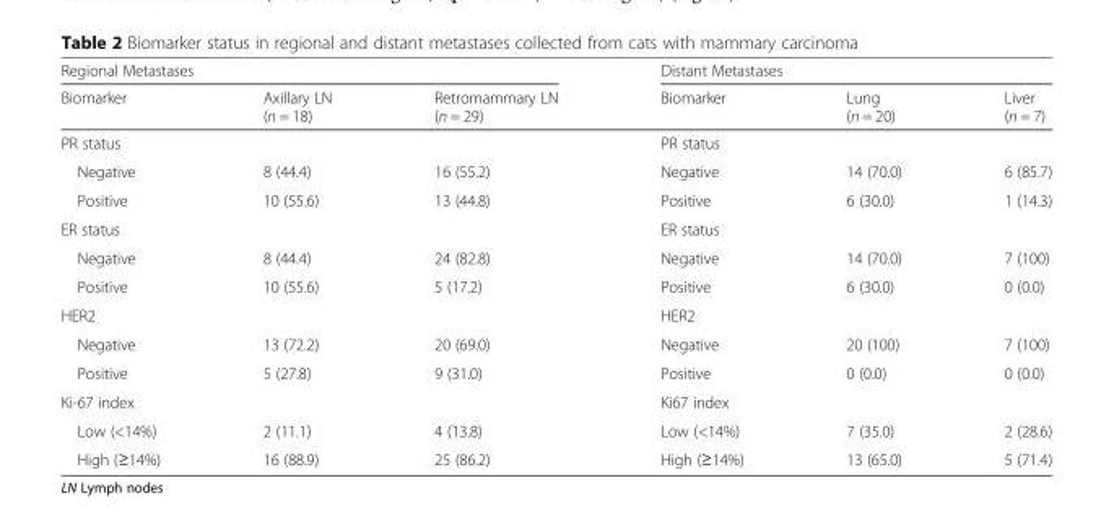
<table><thead><tr><td colspan="3">Regional Metastases</td><td colspan="3">Distant Metastases</td></tr><tr><td>Biomarker</td><td>Axillary LN (n = 18)</td><td>Retromammary LN (n = 29)</td><td>Biomarker</td><td>Lung (n = 20)</td><td>Liver (n = 7)</td></tr></thead><tbody><tr><td colspan="3">PR status</td><td colspan="3">PR status</td></tr><tr><td>Negative</td><td>8 (44.4)</td><td>16 (55.2)</td><td>Negative</td><td>14 (70.0)</td><td>6 (85.7)</td></tr><tr><td>Positive</td><td>10 (55.6)</td><td>13 (44.8)</td><td>Positive</td><td>6 (30.0)</td><td>1 (14.3)</td></tr><tr><td colspan="3">ER status</td><td colspan="3">ER status</td></tr><tr><td>Negative</td><td>8 (44.4)</td><td>24 (82.8)</td><td>Negative</td><td>14 (70.0)</td><td>7 (100)</td></tr><tr><td>Positive</td><td>10 (55.6)</td><td>5 (17.2)</td><td>Positive</td><td>6 (30.0)</td><td>0 (0.0)</td></tr><tr><td colspan="3">HER2</td><td colspan="3">HER2</td></tr><tr><td>Negative</td><td>13 (72.2)</td><td>20 (69.0)</td><td>Negative</td><td>20 (100)</td><td>7 (100)</td></tr><tr><td>Positive</td><td>5 (27.8)</td><td>9 (31.0)</td><td>Positive</td><td>0 (0.0)</td><td>0 (0.0)</td></tr><tr><td colspan="3">Ki-67 index</td><td colspan="3">Ki67 index</td></tr><tr><td>Low (&lt;14%)</td><td>2 (11.1)</td><td>4 (13.8)</td><td>Low (&lt;14%)</td><td>7 (35.0)</td><td>2 (28.6)</td></tr><tr><td>High (≥14%)</td><td>16 (88.9)</td><td>25 (86.2)</td><td>High (≥14%)</td><td>13 (65.0)</td><td>5 (71.4)</td></tr></tbody></table>